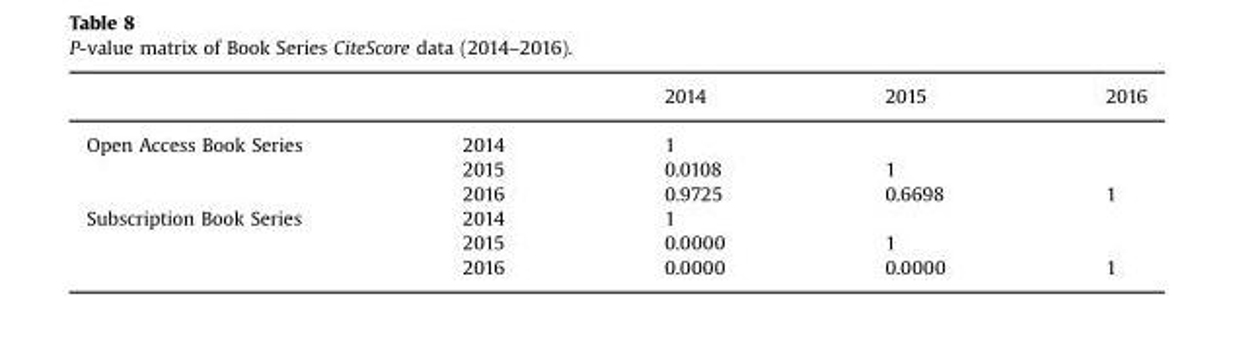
<table><thead><tr><td></td><td></td><td>2014</td><td>2015</td><td>2016</td></tr></thead><tbody><tr><td rowspan="3">Open Access Book Series</td><td>2014</td><td>1</td><td></td><td></td></tr><tr><td>2015</td><td>0.0108</td><td>1</td><td></td></tr><tr><td>2016</td><td>0.9725</td><td>0.6698</td><td>1</td></tr><tr><td rowspan="3">Subscription Book Series</td><td>2014</td><td>1</td><td></td><td></td></tr><tr><td>2015</td><td>0.0000</td><td>1</td><td></td></tr><tr><td>2016</td><td>0.0000</td><td>0.0000</td><td>1</td></tr></tbody></table>